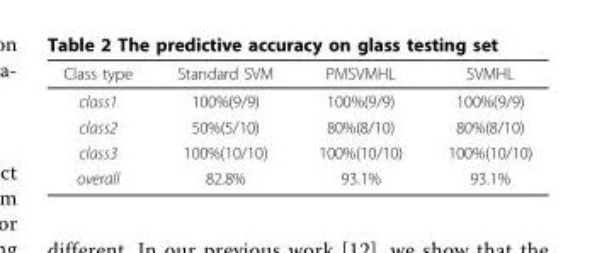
<table><thead><tr><td>Class type</td><td>Standard SVM</td><td>PMSVMHL</td><td>SVMHL</td></tr></thead><tbody><tr><td>class1</td><td>100%(9/9)</td><td>100%(9/9)</td><td>100%(9/9)</td></tr><tr><td>class2</td><td>50%(5/10)</td><td>80%(8/10)</td><td>80%(8/10)</td></tr><tr><td>class3</td><td>100%(10/10)</td><td>100%(10/10)</td><td>100%(10/10)</td></tr><tr><td>overall</td><td>82.8%</td><td>93.1%</td><td>93.1%</td></tr></tbody></table>